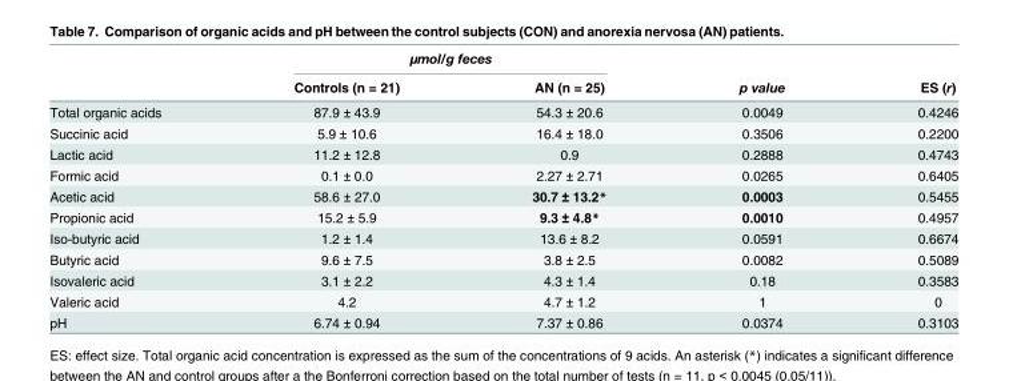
<table><thead><tr><td rowspan="2"></td><td colspan="2">μmol/g feces</td><td rowspan="2">p value</td><td rowspan="2">ES (r)</td></tr><tr><td>Controls (n = 21)</td><td>AN (n = 25)</td></tr></thead><tbody><tr><td>Total organic acids</td><td>87.9 ± 43.9</td><td>54.3 ± 20.6</td><td>0.0049</td><td>0.4246</td></tr><tr><td>Succinic acid</td><td>5.9 ± 10.6</td><td>16.4 ± 18.0</td><td>0.3506</td><td>0.2200</td></tr><tr><td>Lactic acid</td><td>11.2 ± 12.8</td><td>0.9</td><td>0.2888</td><td>0.4743</td></tr><tr><td>Formic acid</td><td>0.1 ± 0.0</td><td>2.27 ± 2.71</td><td>0.0265</td><td>0.6405</td></tr><tr><td>Acetic acid</td><td>58.6 ± 27.0</td><td>30.7 ± 13.2*</td><td>0.0003</td><td>0.5455</td></tr><tr><td>Propionic acid</td><td>15.2 ± 5.9</td><td>9.3 ± 4.8*</td><td>0.0010</td><td>0.4957</td></tr><tr><td>Iso-butyric acid</td><td>1.2 ± 1.4</td><td>13.6 ± 8.2</td><td>0.0591</td><td>0.6674</td></tr><tr><td>Butyric acid</td><td>9.6 ± 7.5</td><td>3.8 ± 2.5</td><td>0.0082</td><td>0.5089</td></tr><tr><td>Isovaleric acid</td><td>3.1 ± 2.2</td><td>4.3 ± 1.4</td><td>0.18</td><td>0.3583</td></tr><tr><td>Valeric acid</td><td>4.2</td><td>4.7 ± 1.2</td><td>1</td><td>0</td></tr><tr><td>pH</td><td>6.74 ± 0.94</td><td>7.37 ± 0.86</td><td>0.0374</td><td>0.3103</td></tr></tbody></table>